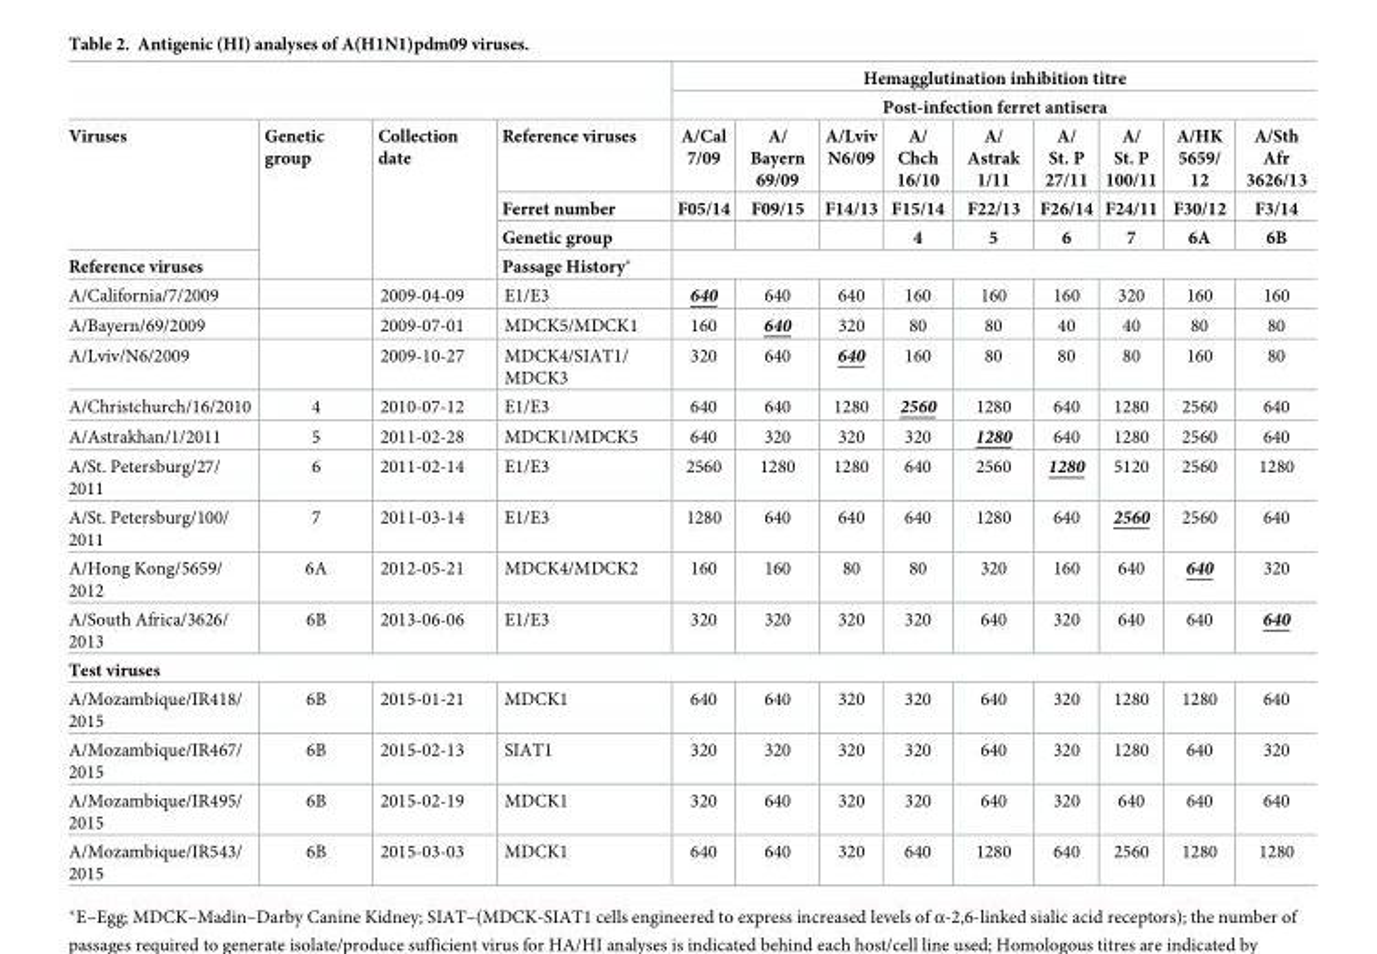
<table><thead><tr><td rowspan="6">Viruses Reference viruses</td><td rowspan="6">Genetic group</td><td rowspan="6">Collection date</td><td rowspan="6">Reference viruses Ferret number Genetic group Passage History*</td><td rowspan="2" colspan="9">Hemagglutination inhibition titre Post-infection ferret antisera</td></tr><tr></tr><tr><td rowspan="4">A/Cal 7/09 F05/14</td><td rowspan="4">A/ Bayern 69/09 F09/15</td><td rowspan="4">A/Lviv N6/09 F14/13</td><td rowspan="4">A/ Chch 16/10 F15/14 4</td><td rowspan="4">A/ Astrak 1/11 F22/13 5</td><td rowspan="4">A/ St. P 27/11 F26/14 6</td><td rowspan="4">A/ St. P 100/11 F24/11 7</td><td rowspan="4">A/HK 5659/ 12 F30/12 6A</td><td rowspan="4">A/Sth Afr 3626/13 F3/14 6B</td></tr><tr></tr><tr></tr><tr></tr></thead><tbody><tr><td>A/California/7/2009</td><td></td><td>2009-04-09</td><td>E1/E3</td><td>640</td><td>640</td><td>640</td><td>160</td><td>160</td><td>160</td><td>320</td><td>160</td><td>160</td></tr><tr><td>A/Bayern/69/2009</td><td></td><td>2009-07-01</td><td>MDCK5/MDCK1</td><td>160</td><td>640</td><td>320</td><td>80</td><td>80</td><td>40</td><td>40</td><td>80</td><td>80</td></tr><tr><td>A/Lviv/N6/2009</td><td></td><td>2009-10-27</td><td>MDCK4/SIAT1/ MDCK3</td><td>320</td><td>640</td><td>640</td><td>160</td><td>80</td><td>80</td><td>80</td><td>160</td><td>80</td></tr><tr><td>A/Christchurch/16/2010</td><td>4</td><td>2010-07-12</td><td>E1/E3</td><td>640</td><td>640</td><td>1280</td><td>2560</td><td>1280</td><td>640</td><td>1280</td><td>2560</td><td>640</td></tr><tr><td>A/Astrakhan/1/2011</td><td>5</td><td>2011-02-28</td><td>MDCK1/MDCK5</td><td>640</td><td>320</td><td>320</td><td>320</td><td>1280</td><td>640</td><td>1280</td><td>2560</td><td>640</td></tr><tr><td>A/St. Petersburg/27/ 2011</td><td>6</td><td>2011-02-14</td><td>E1/E3</td><td>2560</td><td>1280</td><td>1280</td><td>640</td><td>2560</td><td>1280</td><td>5120</td><td>2560</td><td>1280</td></tr><tr><td>A/St. Petersburg/100/ 2011</td><td>7</td><td>2011-03-14</td><td>E1/E3</td><td>1280</td><td>640</td><td>640</td><td>640</td><td>1280</td><td>640</td><td>2560</td><td>2560</td><td>640</td></tr><tr><td>A/Hong Kong/5659/ 2012</td><td>6A</td><td>2012-05-21</td><td>MDCK4/MDCK2</td><td>160</td><td>160</td><td>80</td><td>80</td><td>320</td><td>160</td><td>640</td><td>640</td><td>320</td></tr><tr><td>A/South Africa/3626/ 2013</td><td>6B</td><td>2013-06-06</td><td>E1/E3</td><td>320</td><td>320</td><td>320</td><td>320</td><td>640</td><td>320</td><td>640</td><td>640</td><td>640</td></tr><tr><td colspan="13">Test viruses</td></tr><tr><td>A/Mozambique/IR418/ 2015</td><td>6B</td><td>2015-01-21</td><td>MDCK1</td><td>640</td><td>640</td><td>320</td><td>320</td><td>640</td><td>320</td><td>1280</td><td>1280</td><td>640</td></tr><tr><td>A/Mozambique/IR467/ 2015</td><td>6B</td><td>2015-02-13</td><td>SIAT1</td><td>320</td><td>320</td><td>320</td><td>320</td><td>640</td><td>320</td><td>1280</td><td>640</td><td>320</td></tr><tr><td>A/Mozambique/IR495/ 2015</td><td>6B</td><td>2015-02-19</td><td>MDCK1</td><td>320</td><td>640</td><td>320</td><td>320</td><td>640</td><td>320</td><td>640</td><td>640</td><td>640</td></tr><tr><td>A/Mozambique/IR543/ 2015</td><td>6B</td><td>2015-03-03</td><td>MDCK1</td><td>640</td><td>640</td><td>320</td><td>640</td><td>1280</td><td>640</td><td>2560</td><td>1280</td><td>1280</td></tr></tbody></table>